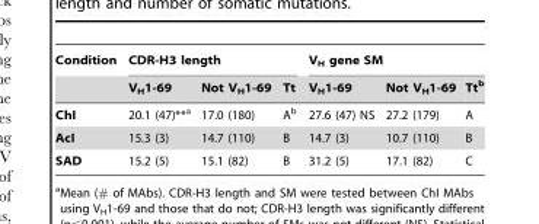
<table><thead><tr><td rowspan="2">Condition</td><td colspan="3">CDR-H3 length</td><td colspan="3">V<sub>H</sub> gene SM</td></tr><tr><td>V<sub>H</sub>1-69</td><td>Not V<sub>H</sub>1-69</td><td>Tt</td><td>V<sub>H</sub>1-69</td><td>Not V<sub>H</sub>1-69</td><td>Tt<sup>b</sup></td></tr></thead><tbody><tr><td>ChI</td><td>20.1 (47)**<sup>a</sup></td><td>17.0 (180)</td><td>A<sup>b</sup></td><td>27.6 (47) NS</td><td>27.2 (179)</td><td>A</td></tr><tr><td>AcI</td><td>15.3 (3)</td><td>14.7 (110)</td><td>B</td><td>14.7 (3)</td><td>10.7 (110)</td><td>B</td></tr><tr><td>SAD</td><td>15.2 (5)</td><td>15.1 (82)</td><td>B</td><td>31.2 (5)</td><td>17.1 (82)</td><td>C</td></tr></tbody></table>